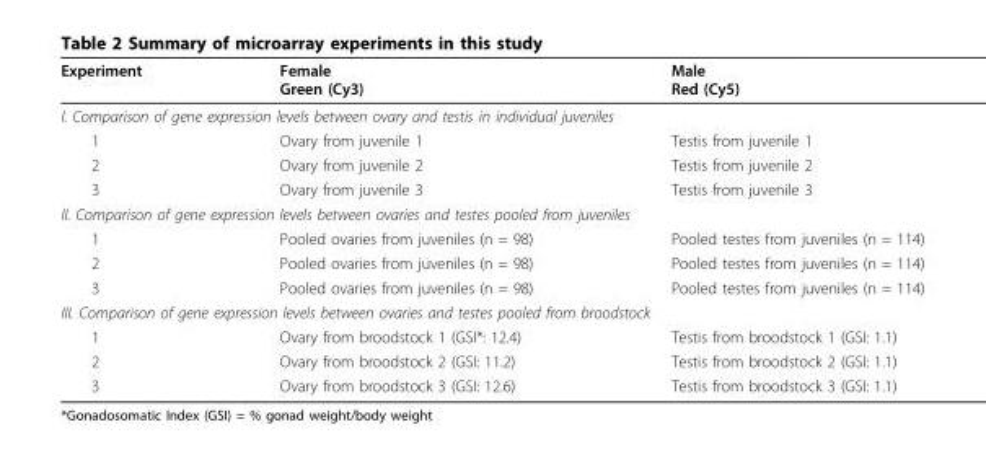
<table><thead><tr><td>Experiment</td><td>Female Green (Cy3)</td><td>Male Red (Cy5)</td></tr></thead><tbody><tr><td colspan="3">I. Comparison of gene expression levels between ovary and testis in individual juveniles</td></tr><tr><td>1</td><td>Ovary from juvenile 1</td><td>Testis from juvenile 1</td></tr><tr><td>2</td><td>Ovary from juvenile 2</td><td>Testis from juvenile 2</td></tr><tr><td>3</td><td>Ovary from juvenile 3</td><td>Testis from juvenile 3</td></tr><tr><td colspan="3">II. Comparison of gene expression levels between ovaries and testes pooled from juveniles</td></tr><tr><td>1</td><td>Pooled ovaries from juveniles (n = 98)</td><td>Pooled testes from juveniles (n = 114)</td></tr><tr><td>2</td><td>Pooled ovaries from juveniles (n = 98)</td><td>Pooled testes from juveniles (n = 114)</td></tr><tr><td>3</td><td>Pooled ovaries from juveniles (n = 98)</td><td>Pooled testes from juveniles (n = 114)</td></tr><tr><td colspan="3">III. Comparison of gene expression levels between ovaries and testes pooled from broodstock</td></tr><tr><td>1</td><td>Ovary from broodstock 1 (GSI*: 12.4)</td><td>Testis from broodstock 1 (GSI: 1.1)</td></tr><tr><td>2</td><td>Ovary from broodstock 2 (GSI: 11.2)</td><td>Testis from broodstock 2 (GSI: 1.1)</td></tr><tr><td>3</td><td>Ovary from broodstock 3 (GSI: 12.6)</td><td>Testis from broodstock 3 (GSI: 1.1)</td></tr></tbody></table>